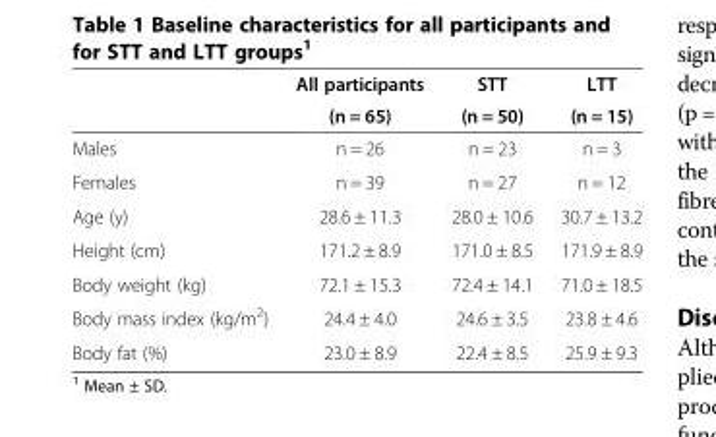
<table><thead><tr><td rowspan="2"></td><td rowspan="2">All participants (n = 65)</td><td rowspan="2">STT (n = 50)</td><td rowspan="2">LTT (n = 15)</td></tr><tr></tr></thead><tbody><tr><td>Males</td><td>n = 26</td><td>n = 23</td><td>n = 3</td></tr><tr><td>Females</td><td>n = 39</td><td>n = 27</td><td>n = 12</td></tr><tr><td>Age (y)</td><td>28.6 ± 11.3</td><td>28.0 ± 10.6</td><td>30.7 ± 13.2</td></tr><tr><td>Height (cm)</td><td>171.2 ± 8.9</td><td>171.0 ± 8.5</td><td>171.9 ± 8.9</td></tr><tr><td>Body weight (kg)</td><td>72.1 ± 15.3</td><td>72.4 ± 14.1</td><td>71.0 ± 18.5</td></tr><tr><td>Body mass index (kg/m<sup>2</sup>)</td><td>24.4 ± 4.0</td><td>24.6 ± 3.5</td><td>23.8 ± 4.6</td></tr><tr><td>Body fat (%)</td><td>23.0 ± 8.9</td><td>22.4 ± 8.5</td><td>25.9 ± 9.3</td></tr></tbody></table>